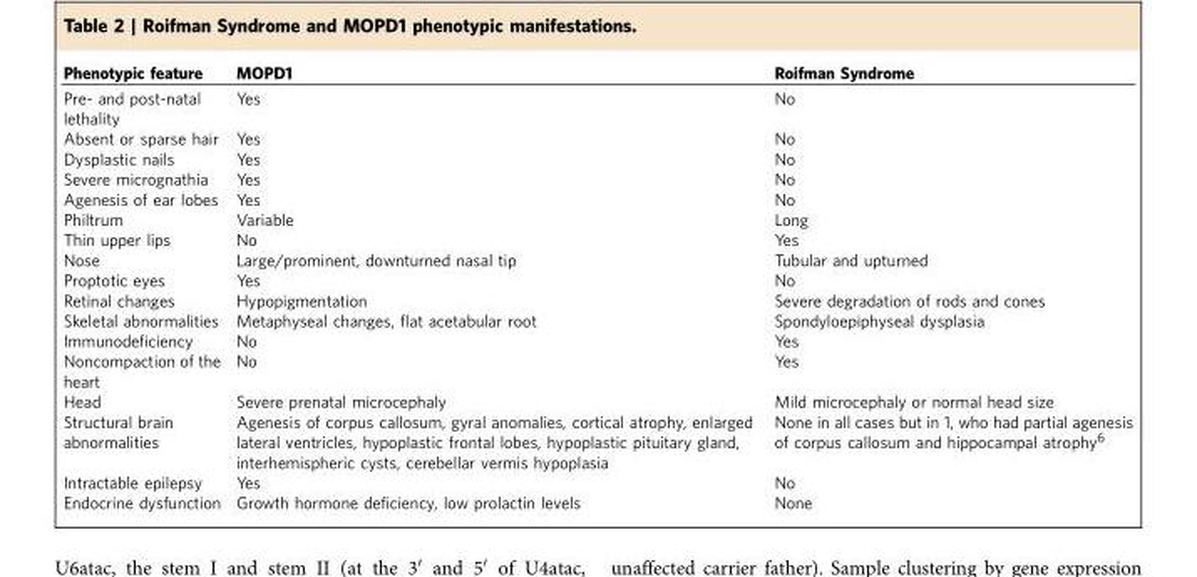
<table><thead><tr><td>Phenotypic feature</td><td>MOPD1</td><td>Roifman Syndrome</td></tr></thead><tbody><tr><td>Pre- and post-natal lethality</td><td>Yes</td><td>No</td></tr><tr><td>Absent or sparse hair</td><td>Yes</td><td>No</td></tr><tr><td>Dysplastic nails</td><td>Yes</td><td>No</td></tr><tr><td>Severe micrognathia</td><td>Yes</td><td>No</td></tr><tr><td>Agenesis of ear lobes</td><td>Yes</td><td>No</td></tr><tr><td>Philtrum</td><td>Variable</td><td>Long</td></tr><tr><td>Thin upper lips</td><td>No</td><td>Yes</td></tr><tr><td>Nose</td><td>Large/prominent, downturned nasal tip</td><td>Tubular and upturned</td></tr><tr><td>Proptotic eyes</td><td>Yes</td><td>No</td></tr><tr><td>Retinal changes</td><td>Hypopigmentation</td><td>Severe degradation of rods and cones</td></tr><tr><td>Skeletal abnormalities</td><td>Metaphyseal changes, flat acetabular root</td><td>Spondyloepiphyseal dysplasia</td></tr><tr><td>Immunodeficiency</td><td>No</td><td>Yes</td></tr><tr><td>Noncompaction of the heart</td><td>No</td><td>Yes</td></tr><tr><td>Head</td><td>Severe prenatal microcephaly</td><td>Mild microcephaly or normal head size</td></tr><tr><td>Structural brain abnormalities</td><td>Agenesis of corpus callosum, gyral anomalies, cortical atrophy, enlarged lateral ventricles, hypoplastic frontal lobes, hypoplastic pituitary gland, interhemispheric cysts, cerebellar vermis hypoplasia</td><td>None in all cases but in 1, who had partial agenesis of corpus callosum and hippocampal atrophy<sup>6</sup></td></tr><tr><td>Intractable epilepsy</td><td>Yes</td><td>No</td></tr><tr><td>Endocrine dysfunction</td><td>Growth hormone deficiency, low prolactin levels</td><td>None</td></tr></tbody></table>